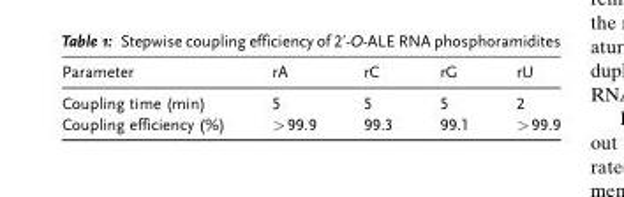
<table><thead><tr><td>Parameter</td><td>rA</td><td>rC</td><td>rG</td><td>rU</td></tr></thead><tbody><tr><td>Coupling time (min)</td><td>5</td><td>5</td><td>5</td><td>2</td></tr><tr><td>Coupling efficiency (%)</td><td>&gt;99.9</td><td>99.3</td><td>99.1</td><td>&gt;99.9</td></tr></tbody></table>